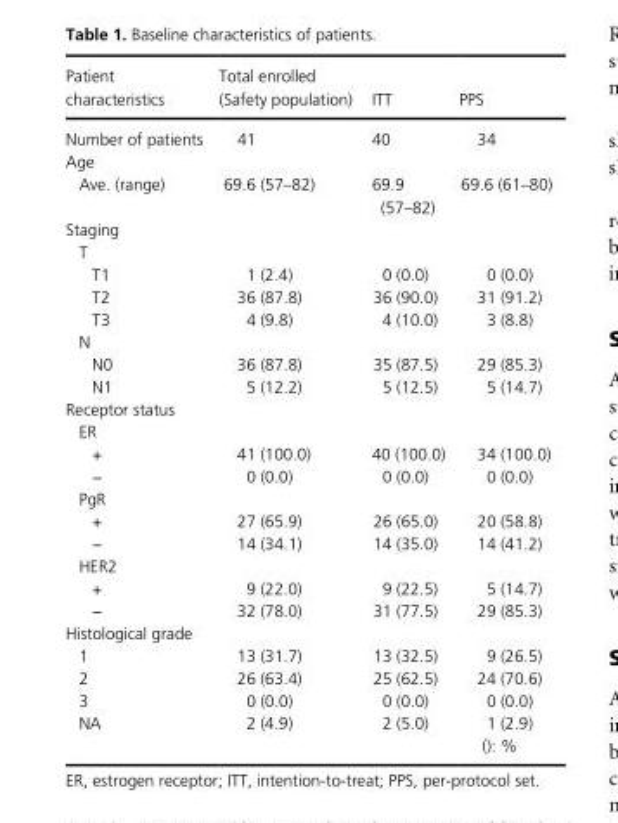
<table><thead><tr><td>Patient characteristics</td><td>Total enrolled (Safety population)</td><td>ITT</td><td>PPS</td></tr></thead><tbody><tr><td>Number of patients</td><td>41</td><td>40</td><td>34</td></tr><tr><td colspan="4">Age</td></tr><tr><td>Ave. (range)</td><td>69.6 (57–82)</td><td>69.9 (57–82)</td><td>69.6 (61–80)</td></tr><tr><td colspan="4">Staging</td></tr><tr><td colspan="4">T</td></tr><tr><td>T1</td><td>1 (2.4)</td><td>0 (0.0)</td><td>0 (0.0)</td></tr><tr><td>T2</td><td>36 (87.8)</td><td>36 (90.0)</td><td>31 (91.2)</td></tr><tr><td>T3</td><td>4 (9.8)</td><td>4 (10.0)</td><td>3 (8.8)</td></tr><tr><td colspan="4">N</td></tr><tr><td>N0</td><td>36 (87.8)</td><td>35 (87.5)</td><td>29 (85.3)</td></tr><tr><td>N1</td><td>5 (12.2)</td><td>5 (12.5)</td><td>5 (14.7)</td></tr><tr><td colspan="4">Receptor status</td></tr><tr><td colspan="4">ER</td></tr><tr><td>+</td><td>41 (100.0)</td><td>40 (100.0)</td><td>34 (100.0)</td></tr><tr><td>−</td><td>0 (0.0)</td><td>0 (0.0)</td><td>0 (0.0)</td></tr><tr><td colspan="4">PgR</td></tr><tr><td>+</td><td>27 (65.9)</td><td>26 (65.0)</td><td>20 (58.8)</td></tr><tr><td>−</td><td>14 (34.1)</td><td>14 (35.0)</td><td>14 (41.2)</td></tr><tr><td colspan="4">HER2</td></tr><tr><td>+</td><td>9 (22.0)</td><td>9 (22.5)</td><td>5 (14.7)</td></tr><tr><td>−</td><td>32 (78.0)</td><td>31 (77.5)</td><td>29 (85.3)</td></tr><tr><td colspan="4">Histological grade</td></tr><tr><td>1</td><td>13 (31.7)</td><td>13 (32.5)</td><td>9 (26.5)</td></tr><tr><td>2</td><td>26 (63.4)</td><td>25 (62.5)</td><td>24 (70.6)</td></tr><tr><td>3</td><td>0 (0.0)</td><td>0 (0.0)</td><td>0 (0.0)</td></tr><tr><td rowspan="2">NA</td><td>2 (4.9)</td><td>2 (5.0)</td><td>1 (2.9)</td></tr><tr><td></td><td></td><td>(): %</td></tr></tbody></table>